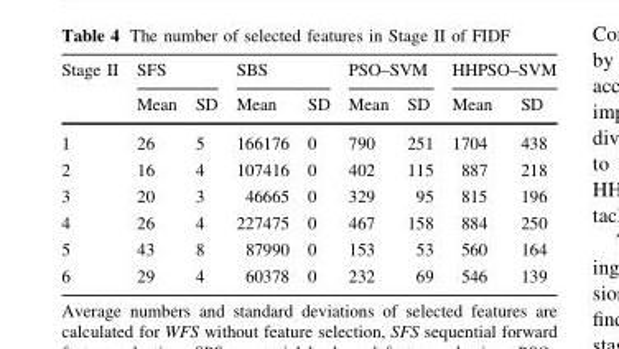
<table><thead><tr><td rowspan="2">Stage II</td><td colspan="2">SFS</td><td colspan="2">SBS</td><td colspan="2">PSO–SVM</td><td colspan="2">HHPSO–SVM</td></tr><tr><td>Mean</td><td>SD</td><td>Mean</td><td>SD</td><td>Mean</td><td>SD</td><td>Mean</td><td>SD</td></tr></thead><tbody><tr><td>1</td><td>26</td><td>5</td><td>166176</td><td>0</td><td>790</td><td>251</td><td>1704</td><td>438</td></tr><tr><td>2</td><td>16</td><td>4</td><td>107416</td><td>0</td><td>402</td><td>115</td><td>887</td><td>218</td></tr><tr><td>3</td><td>20</td><td>3</td><td>46665</td><td>0</td><td>329</td><td>95</td><td>815</td><td>196</td></tr><tr><td>4</td><td>26</td><td>4</td><td>227475</td><td>0</td><td>467</td><td>158</td><td>884</td><td>250</td></tr><tr><td>5</td><td>43</td><td>8</td><td>87990</td><td>0</td><td>153</td><td>53</td><td>560</td><td>164</td></tr><tr><td>6</td><td>29</td><td>4</td><td>60378</td><td>0</td><td>232</td><td>69</td><td>546</td><td>139</td></tr></tbody></table>